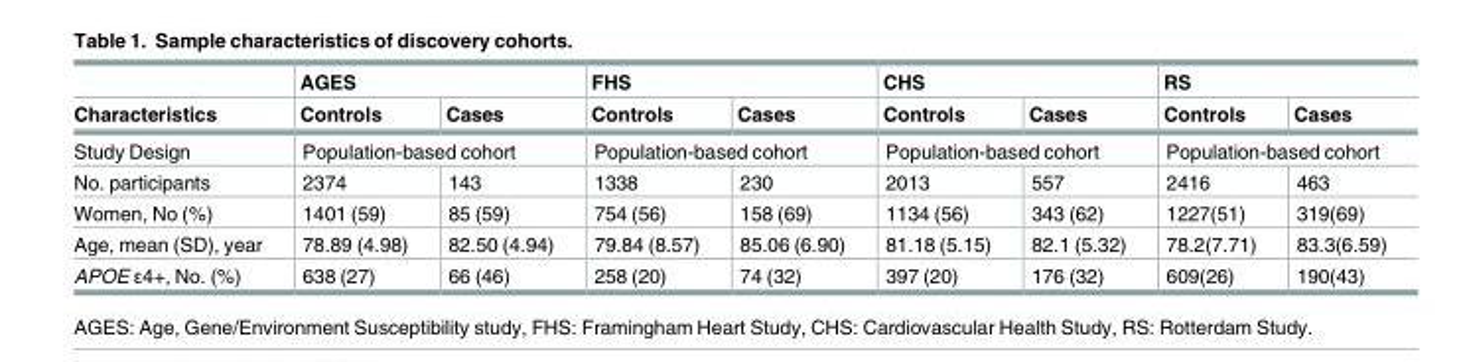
<table><thead><tr><td rowspan="2">Characteristics</td><td colspan="2">AGES</td><td colspan="2">FHS</td><td colspan="2">CHS</td><td colspan="2">RS</td></tr><tr><td>Controls</td><td>Cases</td><td>Controls</td><td>Cases</td><td>Controls</td><td>Cases</td><td>Controls</td><td>Cases</td></tr></thead><tbody><tr><td>Study Design</td><td colspan="2">Population-based cohort</td><td colspan="2">Population-based cohort</td><td colspan="2">Population-based cohort</td><td colspan="2">Population-based cohort</td></tr><tr><td>No. participants</td><td>2374</td><td>143</td><td>1338</td><td>230</td><td>2013</td><td>557</td><td>2416</td><td>463</td></tr><tr><td>Women, No (%)</td><td>1401 (59)</td><td>85 (59)</td><td>754 (56)</td><td>158 (69)</td><td>1134 (56)</td><td>343 (62)</td><td>1227(51)</td><td>319(69)</td></tr><tr><td>Age, mean (SD), year</td><td>78.89 (4.98)</td><td>82.50 (4.94)</td><td>79.84 (8.57)</td><td>85.06 (6.90)</td><td>81.18 (5.15)</td><td>82.1 (5.32)</td><td>78.2(7.71)</td><td>83.3(6.59)</td></tr><tr><td>APOE ε4+, No. (%)</td><td>638 (27)</td><td>66 (46)</td><td>258 (20)</td><td>74 (32)</td><td>397 (20)</td><td>176 (32)</td><td>609(26)</td><td>190(43)</td></tr></tbody></table>